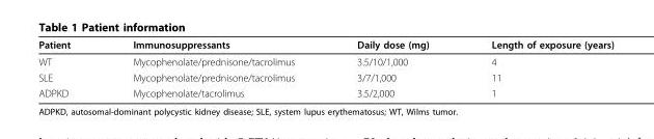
<table><thead><tr><td>Patient</td><td>Immunosuppressants</td><td>Daily dose (mg)</td><td>Length of exposure (years)</td></tr></thead><tbody><tr><td>WT</td><td>Mycophenolate/prednisone/tacrolimus</td><td>3.5/10/1,000</td><td>4</td></tr><tr><td>SLE</td><td>Mycophenolate/prednisone/tacrolimus</td><td>3/7/1,000</td><td>11</td></tr><tr><td>ADPKD</td><td>Mycophenolate/tacrolimus</td><td>3.5/2,000</td><td>1</td></tr></tbody></table>